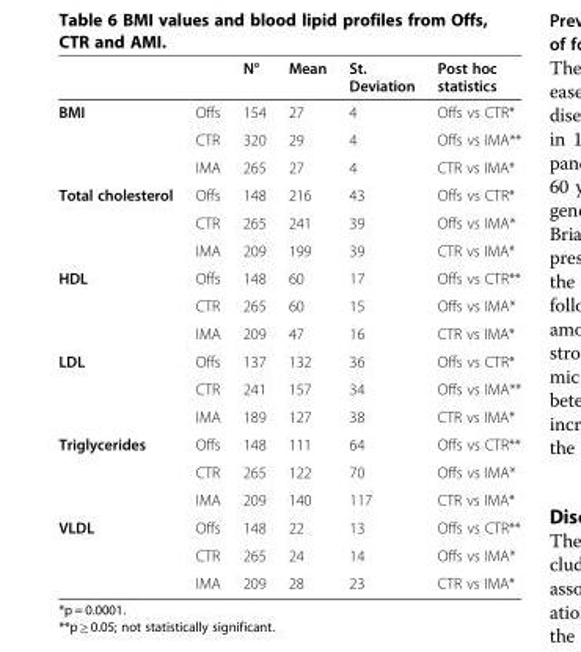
<table><thead><tr><td></td><td></td><td>N°</td><td>Mean</td><td>St. Deviation</td><td>Post hoc statistics</td></tr></thead><tbody><tr><td rowspan="3">BMI</td><td>Offs</td><td>154</td><td>27</td><td>4</td><td>Offs vs CTR*</td></tr><tr><td>CTR</td><td>320</td><td>29</td><td>4</td><td>Offs vs IMA**</td></tr><tr><td>IMA</td><td>265</td><td>27</td><td>4</td><td>CTR vs IMA*</td></tr><tr><td rowspan="3">Total cholesterol</td><td>Offs</td><td>148</td><td>216</td><td>43</td><td>Offs vs CTR*</td></tr><tr><td>CTR</td><td>265</td><td>241</td><td>39</td><td>Offs vs IMA*</td></tr><tr><td>IMA</td><td>209</td><td>199</td><td>39</td><td>CTR vs IMA*</td></tr><tr><td rowspan="3">HDL</td><td>Offs</td><td>148</td><td>60</td><td>17</td><td>Offs vs CTR**</td></tr><tr><td>CTR</td><td>265</td><td>60</td><td>15</td><td>Offs vs IMA*</td></tr><tr><td>IMA</td><td>209</td><td>47</td><td>16</td><td>CTR vs IMA*</td></tr><tr><td rowspan="3">LDL</td><td>Offs</td><td>137</td><td>132</td><td>36</td><td>Offs vs CTR*</td></tr><tr><td>CTR</td><td>241</td><td>157</td><td>34</td><td>Offs vs IMA**</td></tr><tr><td>IMA</td><td>189</td><td>127</td><td>38</td><td>CTR vs IMA*</td></tr><tr><td rowspan="3">Triglycerides</td><td>Offs</td><td>148</td><td>111</td><td>64</td><td>Offs vs CTR**</td></tr><tr><td>CTR</td><td>265</td><td>122</td><td>70</td><td>Offs vs IMA*</td></tr><tr><td>IMA</td><td>209</td><td>140</td><td>117</td><td>CTR vs IMA*</td></tr><tr><td rowspan="3">VLDL</td><td>Offs</td><td>148</td><td>22</td><td>13</td><td>Offs vs CTR**</td></tr><tr><td>CTR</td><td>265</td><td>24</td><td>14</td><td>Offs vs IMA*</td></tr><tr><td>IMA</td><td>209</td><td>28</td><td>23</td><td>CTR vs IMA*</td></tr></tbody></table>